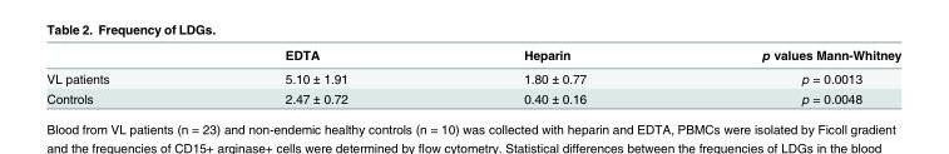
<table><thead><tr><td></td><td>EDTA</td><td>Heparin</td><td>p values Mann-Whitney</td></tr></thead><tbody><tr><td>VL patients</td><td>5.10 ± 1.91</td><td>1.80 ± 0.77</td><td>p = 0.0013</td></tr><tr><td>Controls</td><td>2.47 ± 0.72</td><td>0.40 ± 0.16</td><td>p = 0.0048</td></tr></tbody></table>